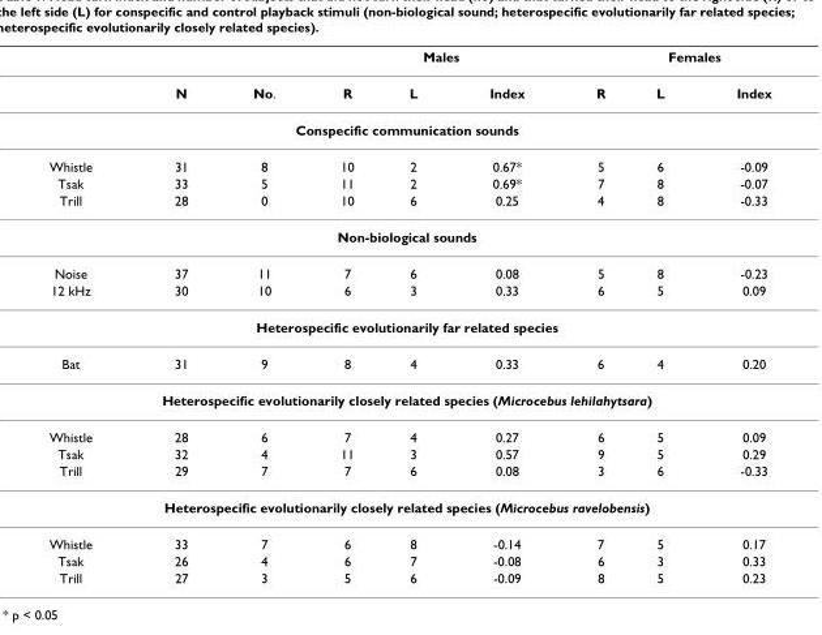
<table><thead><tr><td rowspan="2"></td><td rowspan="2">N</td><td rowspan="2">No.</td><td colspan="3">Males</td><td colspan="3">Females</td></tr><tr><td>R</td><td>L</td><td>Index</td><td>R</td><td>L</td><td>Index</td></tr></thead><tbody><tr><td colspan="9">Conspecific communication sounds</td></tr><tr><td>Whistle</td><td>31</td><td>8</td><td>10</td><td>2</td><td>0.67*</td><td>5</td><td>6</td><td>-0.09</td></tr><tr><td>Tsak</td><td>33</td><td>5</td><td>11</td><td>2</td><td>0.69*</td><td>7</td><td>8</td><td>-0.07</td></tr><tr><td>Trill</td><td>28</td><td>0</td><td>10</td><td>6</td><td>0.25</td><td>4</td><td>8</td><td>-0.33</td></tr><tr><td colspan="9">Non-biological sounds</td></tr><tr><td>Noise</td><td>37</td><td>11</td><td>7</td><td>6</td><td>0.08</td><td>5</td><td>8</td><td>-0.23</td></tr><tr><td>12 kHz</td><td>30</td><td>10</td><td>6</td><td>3</td><td>0.33</td><td>6</td><td>5</td><td>0.09</td></tr><tr><td colspan="9">Heterospecific evolutionarily far related species</td></tr><tr><td>Bat</td><td>31</td><td>9</td><td>8</td><td>4</td><td>0.33</td><td>6</td><td>4</td><td>0.20</td></tr><tr><td colspan="9">Heterospecific evolutionarily closely related species (Microcebus lehilahytsara)</td></tr><tr><td>Whistle</td><td>28</td><td>6</td><td>7</td><td>4</td><td>0.27</td><td>6</td><td>5</td><td>0.09</td></tr><tr><td>Tsak</td><td>32</td><td>4</td><td>11</td><td>3</td><td>0.57</td><td>9</td><td>5</td><td>0.29</td></tr><tr><td>Trill</td><td>29</td><td>7</td><td>7</td><td>6</td><td>0.08</td><td>3</td><td>6</td><td>-0.33</td></tr><tr><td colspan="9">Heterospecific evolutionarily closely related species (Microcebus ravelobensis)</td></tr><tr><td>Whistle</td><td>33</td><td>7</td><td>6</td><td>8</td><td>-0.14</td><td>7</td><td>5</td><td>0.17</td></tr><tr><td>Tsak</td><td>26</td><td>4</td><td>6</td><td>7</td><td>-0.08</td><td>6</td><td>3</td><td>0.33</td></tr><tr><td>Trill</td><td>27</td><td>3</td><td>5</td><td>6</td><td>-0.09</td><td>8</td><td>5</td><td>0.23</td></tr></tbody></table>